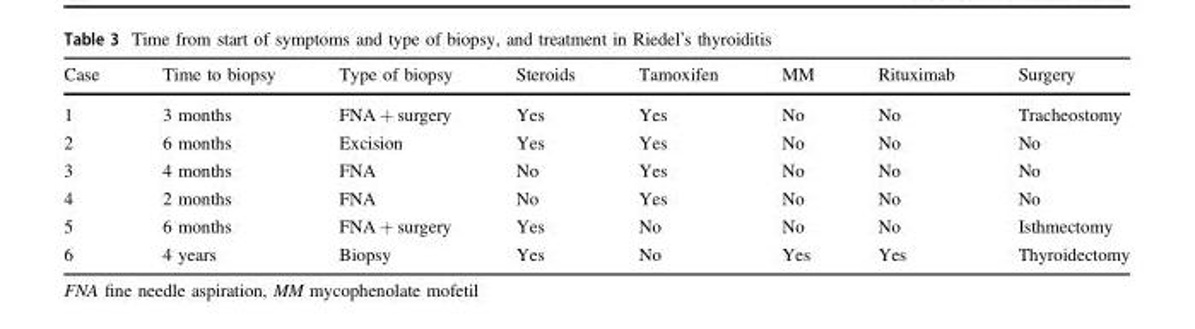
<table><thead><tr><td>Case</td><td>Time to biopsy</td><td>Type of biopsy</td><td>Steroids</td><td>Tamoxifen</td><td>MM</td><td>Rituximab</td><td>Surgery</td></tr></thead><tbody><tr><td>1</td><td>3 months</td><td>FNA + surgery</td><td>Yes</td><td>Yes</td><td>No</td><td>No</td><td>Tracheostomy</td></tr><tr><td>2</td><td>6 months</td><td>Excision</td><td>Yes</td><td>Yes</td><td>No</td><td>No</td><td>No</td></tr><tr><td>3</td><td>4 months</td><td>FNA</td><td>No</td><td>Yes</td><td>No</td><td>No</td><td>No</td></tr><tr><td>4</td><td>2 months</td><td>FNA</td><td>No</td><td>Yes</td><td>No</td><td>No</td><td>No</td></tr><tr><td>5</td><td>6 months</td><td>FNA + surgery</td><td>Yes</td><td>No</td><td>No</td><td>No</td><td>Isthmectomy</td></tr><tr><td>6</td><td>4 years</td><td>Biopsy</td><td>Yes</td><td>No</td><td>Yes</td><td>Yes</td><td>Thyroidectomy</td></tr></tbody></table>